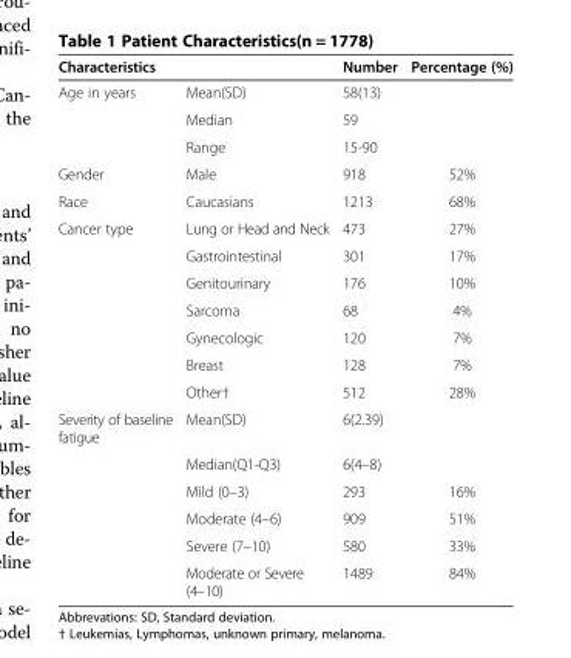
<table><thead><tr><td>Characteristics</td><td></td><td>Number</td><td>Percentage (%)</td></tr></thead><tbody><tr><td rowspan="3">Age in years</td><td>Mean(SD)</td><td>58(13)</td><td></td></tr><tr><td>Median</td><td>59</td><td></td></tr><tr><td>Range</td><td>15-90</td><td></td></tr><tr><td>Gender</td><td>Male</td><td>918</td><td>52%</td></tr><tr><td>Race</td><td>Caucasians</td><td>1213</td><td>68%</td></tr><tr><td rowspan="7">Cancer type</td><td>Lung or Head and Neck</td><td>473</td><td>27%</td></tr><tr><td>Gastrointestinal</td><td>301</td><td>17%</td></tr><tr><td>Genitourinary</td><td>176</td><td>10%</td></tr><tr><td>Sarcoma</td><td>68</td><td>4%</td></tr><tr><td>Gynecologic</td><td>120</td><td>7%</td></tr><tr><td>Breast</td><td>128</td><td>7%</td></tr><tr><td>Other†</td><td>512</td><td>28%</td></tr><tr><td rowspan="6">Severity of baseline fatigue</td><td>Mean(SD)</td><td>6(2.39)</td><td></td></tr><tr><td>Median(Q1-Q3)</td><td>6(4–8)</td><td></td></tr><tr><td>Mild (0–3)</td><td>293</td><td>16%</td></tr><tr><td>Moderate (4–6)</td><td>909</td><td>51%</td></tr><tr><td>Severe (7–10)</td><td>580</td><td>33%</td></tr><tr><td>Moderate or Severe (4–10)</td><td>1489</td><td>84%</td></tr></tbody></table>